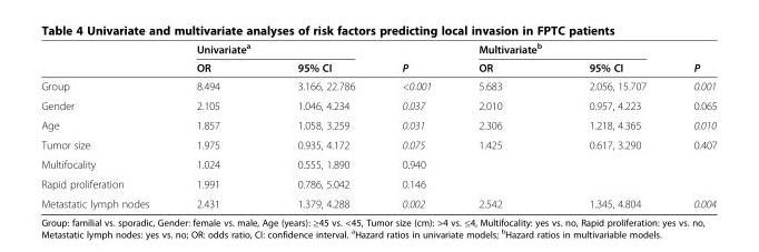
<table><thead><tr><td rowspan="2"></td><td rowspan="2">Univariate<sup>a</sup> OR</td><td rowspan="2">95% CI</td><td rowspan="2">P</td><td rowspan="2">Multivariate<sup>b</sup> OR</td><td rowspan="2">95% CI</td><td rowspan="2">P</td></tr><tr></tr></thead><tbody><tr><td>Group</td><td>8.494</td><td>3.166, 22.786</td><td>&lt;0.001</td><td>5.683</td><td>2.056, 15.707</td><td>0.001</td></tr><tr><td>Gender</td><td>2.105</td><td>1.046, 4.234</td><td>0.037</td><td>2.010</td><td>0.957, 4.223</td><td>0.065</td></tr><tr><td>Age</td><td>1.857</td><td>1.058, 3.259</td><td>0.031</td><td>2.306</td><td>1.218, 4.365</td><td>0.010</td></tr><tr><td>Tumor size</td><td>1.975</td><td>0.935, 4.172</td><td>0.075</td><td>1.425</td><td>0.617, 3.290</td><td>0.407</td></tr><tr><td>Multifocality</td><td>1.024</td><td>0.555, 1.890</td><td>0.940</td><td></td><td></td><td></td></tr><tr><td>Rapid proliferation</td><td>1.991</td><td>0.786, 5.042</td><td>0.146</td><td></td><td></td><td></td></tr><tr><td>Metastatic lymph nodes</td><td>2.431</td><td>1.379, 4.288</td><td>0.002</td><td>2.542</td><td>1.345, 4.804</td><td>0.004</td></tr></tbody></table>